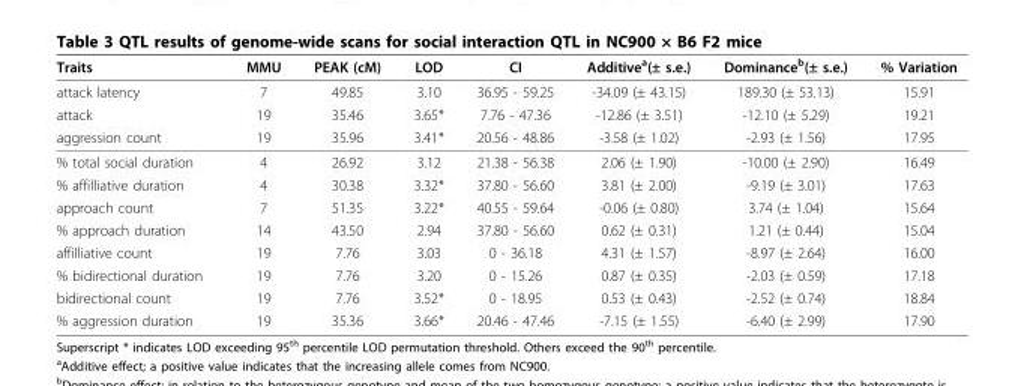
<table><thead><tr><td>Traits</td><td>MMU</td><td>PEAK (cM)</td><td>LOD</td><td>CI</td><td>Additive<sup>a</sup>(± s.e.)</td><td>Dominance<sup>b</sup>(± s.e.)</td><td>% Variation</td></tr></thead><tbody><tr><td>attack latency</td><td>7</td><td>49.85</td><td>3.10</td><td>36.95 - 59.25</td><td>-34.09 (± 43.15)</td><td>189.30 (± 53.13)</td><td>15.91</td></tr><tr><td>attack</td><td>19</td><td>35.46</td><td>3.65*</td><td>7.76 - 47.36</td><td>-12.86 (± 3.51)</td><td>-12.10 (± 5.29)</td><td>19.21</td></tr><tr><td>aggression count</td><td>19</td><td>35.96</td><td>3.41*</td><td>20.56 - 48.86</td><td>-3.58 (± 1.02)</td><td>-2.93 (± 1.56)</td><td>17.95</td></tr><tr><td>% total social duration</td><td>4</td><td>26.92</td><td>3.12</td><td>21.38 - 56.38</td><td>2.06 (± 1.90)</td><td>-10.00 (± 2.90)</td><td>16.49</td></tr><tr><td>% affilliative duration</td><td>4</td><td>30.38</td><td>3.32*</td><td>37.80 - 56.60</td><td>3.81 (± 2.00)</td><td>-9.19 (± 3.01)</td><td>17.63</td></tr><tr><td>approach count</td><td>7</td><td>51.35</td><td>3.22*</td><td>40.55 - 59.64</td><td>-0.06 (± 0.80)</td><td>3.74 (± 1.04)</td><td>15.64</td></tr><tr><td>% approach duration</td><td>14</td><td>43.50</td><td>2.94</td><td>37.80 - 56.60</td><td>0.62 (± 0.31)</td><td>1.21 (± 0.44)</td><td>15.04</td></tr><tr><td>affilliative count</td><td>19</td><td>7.76</td><td>3.03</td><td>0 - 36.18</td><td>4.31 (± 1.57)</td><td>-8.97 (± 2.64)</td><td>16.00</td></tr><tr><td>% bidirectional duration</td><td>19</td><td>7.76</td><td>3.20</td><td>0 - 15.26</td><td>0.87 (± 0.35)</td><td>-2.03 (± 0.59)</td><td>17.18</td></tr><tr><td>bidirectional count</td><td>19</td><td>7.76</td><td>3.52*</td><td>0 - 18.95</td><td>0.53 (± 0.43)</td><td>-2.52 (± 0.74)</td><td>18.84</td></tr><tr><td>% aggression duration</td><td>19</td><td>35.36</td><td>3.66*</td><td>20.46 - 47.46</td><td>-7.15 (± 1.55)</td><td>-6.40 (± 2.99)</td><td>17.90</td></tr></tbody></table>